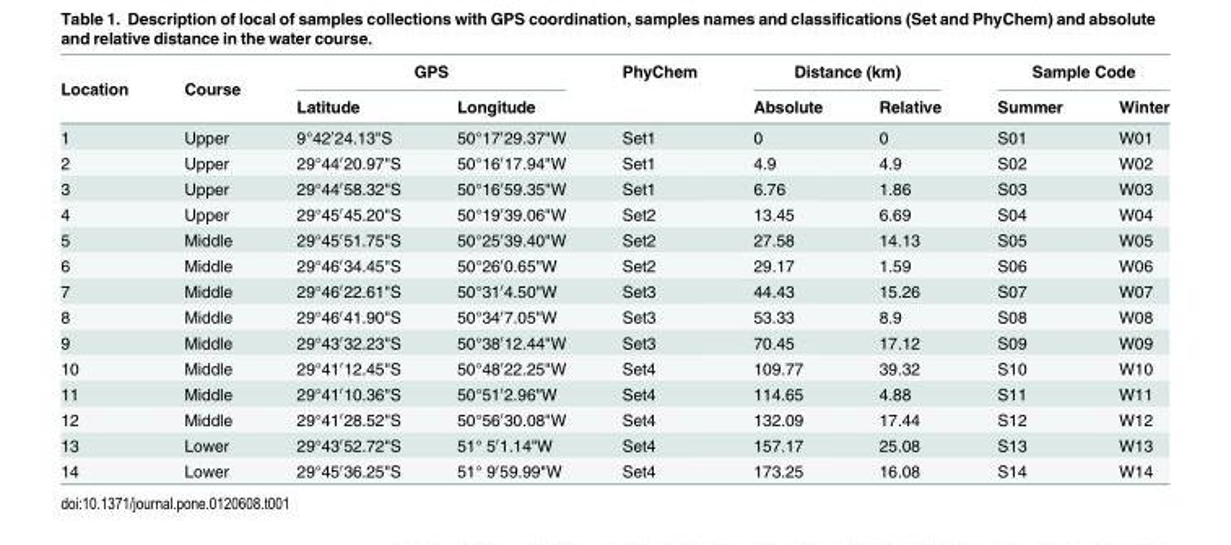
<table><thead><tr><td rowspan="2">Location</td><td rowspan="2">Course</td><td colspan="2">GPS</td><td rowspan="2">PhyChem</td><td colspan="2">Distance (km)</td><td colspan="2">Sample Code</td></tr><tr><td>Latitude</td><td>Longitude</td><td>Absolute</td><td>Relative</td><td>Summer</td><td>Winter</td></tr></thead><tbody><tr><td>1</td><td>Upper</td><td>9°42′24.13&quot;S</td><td>50°17′29.37&quot;W</td><td>Set1</td><td>0</td><td>0</td><td>S01</td><td>W01</td></tr><tr><td>2</td><td>Upper</td><td>29°44′20.97&quot;S</td><td>50°16′17.94&quot;W</td><td>Set1</td><td>4.9</td><td>4.9</td><td>S02</td><td>W02</td></tr><tr><td>3</td><td>Upper</td><td>29°44′58.32&quot;S</td><td>50°16′59.35&quot;W</td><td>Set1</td><td>6.76</td><td>1.86</td><td>S03</td><td>W03</td></tr><tr><td>4</td><td>Upper</td><td>29°45′45.20&quot;S</td><td>50°19′39.06&quot;W</td><td>Set2</td><td>13.45</td><td>6.69</td><td>S04</td><td>W04</td></tr><tr><td>5</td><td>Middle</td><td>29°45′51.75&quot;S</td><td>50°25′39.40&quot;W</td><td>Set2</td><td>27.58</td><td>14.13</td><td>S05</td><td>W05</td></tr><tr><td>6</td><td>Middle</td><td>29°46′34.45&quot;S</td><td>50°26′0.65&quot;W</td><td>Set2</td><td>29.17</td><td>1.59</td><td>S06</td><td>W06</td></tr><tr><td>7</td><td>Middle</td><td>29°46′22.61&quot;S</td><td>50°31′4.50&quot;W</td><td>Set3</td><td>44.43</td><td>15.26</td><td>S07</td><td>W07</td></tr><tr><td>8</td><td>Middle</td><td>29°46′41.90&quot;S</td><td>50°34′7.05&quot;W</td><td>Set3</td><td>53.33</td><td>8.9</td><td>S08</td><td>W08</td></tr><tr><td>9</td><td>Middle</td><td>29°43′32.23&quot;S</td><td>50°38′12.44&quot;W</td><td>Set3</td><td>70.45</td><td>17.12</td><td>S09</td><td>W09</td></tr><tr><td>10</td><td>Middle</td><td>29°41′12.45&quot;S</td><td>50°48′22.25&quot;W</td><td>Set4</td><td>109.77</td><td>39.32</td><td>S10</td><td>W10</td></tr><tr><td>11</td><td>Middle</td><td>29°41′10.36&quot;S</td><td>50°51′2.96&quot;W</td><td>Set4</td><td>114.65</td><td>4.88</td><td>S11</td><td>W11</td></tr><tr><td>12</td><td>Middle</td><td>29°41′28.52&quot;S</td><td>50°56′30.08&quot;W</td><td>Set4</td><td>132.09</td><td>17.44</td><td>S12</td><td>W12</td></tr><tr><td>13</td><td>Lower</td><td>29°43′52.72&quot;S</td><td>51° 5′1.14&quot;W</td><td>Set4</td><td>157.17</td><td>25.08</td><td>S13</td><td>W13</td></tr><tr><td>14</td><td>Lower</td><td>29°45′36.25&quot;S</td><td>51° 9′59.99&quot;W</td><td>Set4</td><td>173.25</td><td>16.08</td><td>S14</td><td>W14</td></tr></tbody></table>